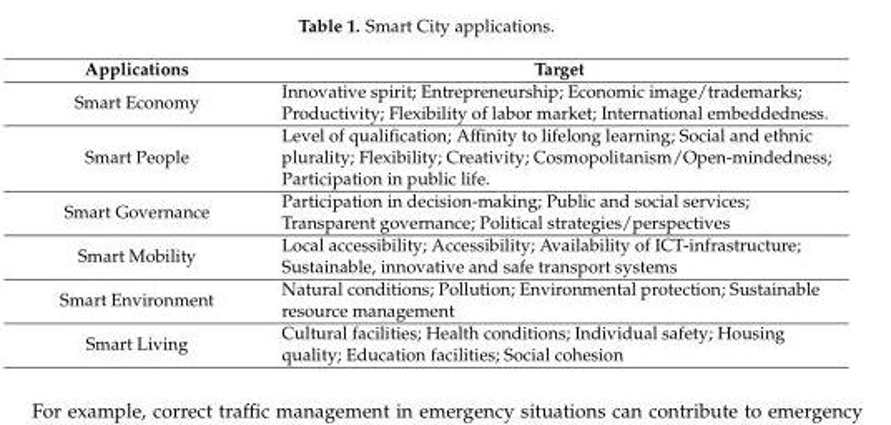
<table><thead><tr><td>Applications</td><td>Target</td></tr></thead><tbody><tr><td>Smart Economy</td><td>Innovative spirit; Entrepreneurship; Economic image/trademarks; Productivity; Flexibility of labor market; International embeddedness.</td></tr><tr><td>Smart People</td><td>Level of qualification; Affinity to lifelong learning; Social and ethnic plurality; Flexibility; Creativity; Cosmopolitanism/Open-mindedness; Participation in public life.</td></tr><tr><td>Smart Governance</td><td>Participation in decision-making; Public and social services; Transparent governance; Political strategies/perspectives</td></tr><tr><td>Smart Mobility</td><td>Local accessibility; Accessibility; Availability of ICT-infrastructure; Sustainable, innovative and safe transport systems</td></tr><tr><td>Smart Environment</td><td>Natural conditions; Pollution; Environmental protection; Sustainable resource management</td></tr><tr><td>Smart Living</td><td>Cultural facilities; Health conditions; Individual safety; Housing quality; Education facilities; Social cohesion</td></tr></tbody></table>